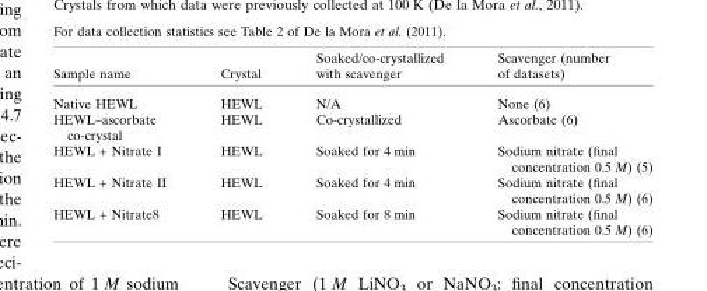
<table><thead><tr><td>Sample name</td><td>Crystal</td><td>Soaked/co-crystallized with scavenger</td><td>Scavenger (number of datasets)</td></tr></thead><tbody><tr><td>Native HEWL</td><td>HEWL</td><td>N/A</td><td>None (6)</td></tr><tr><td>HEWL–ascorbate co-crystal</td><td>HEWL</td><td>Co-crystallized</td><td>Ascorbate (6)</td></tr><tr><td>HEWL + Nitrate I</td><td>HEWL</td><td>Soaked for 4 min</td><td>Sodium nitrate (final concentration 0.5 M) (5)</td></tr><tr><td>HEWL + Nitrate II</td><td>HEWL</td><td>Soaked for 4 min</td><td>Sodium nitrate (final concentration 0.5 M) (6)</td></tr><tr><td>HEWL + Nitrate8</td><td>HEWL</td><td>Soaked for 8 min</td><td>Sodium nitrate (final concentration 0.5 M) (6)</td></tr></tbody></table>